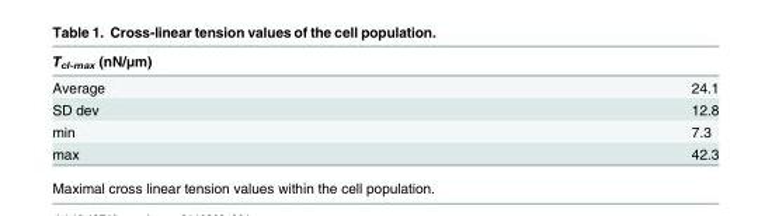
<table><thead><tr><td colspan="2">T<sub>cl-max</sub> (nN/μm)</td></tr><tr><td>Average</td><td>24.1</td></tr></thead><tbody><tr><td>SD dev</td><td>12.8</td></tr><tr><td>min</td><td>7.3</td></tr><tr><td>max</td><td>42.3</td></tr></tbody></table>